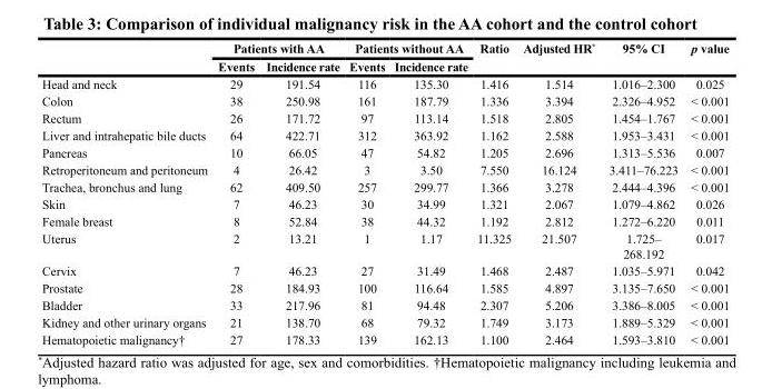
<table><thead><tr><td rowspan="2"></td><td colspan="2">Patients with AA</td><td colspan="2">Patients without AA</td><td rowspan="2">Ratio</td><td rowspan="2">Adjusted HR*</td><td rowspan="2">95% CI</td><td rowspan="2">p value</td></tr><tr><td>Events</td><td>Incidence rate</td><td>Events</td><td>Incidence rate</td></tr></thead><tbody><tr><td>Head and neck</td><td>29</td><td>191.54</td><td>116</td><td>135.30</td><td>1.416</td><td>1.514</td><td>1.016–2.300</td><td>0.025</td></tr><tr><td>Colon</td><td>38</td><td>250.98</td><td>161</td><td>187.79</td><td>1.336</td><td>3.394</td><td>2.326–4.952</td><td>&lt; 0.001</td></tr><tr><td>Rectum</td><td>26</td><td>171.72</td><td>97</td><td>113.14</td><td>1.518</td><td>2.805</td><td>1.454–1.767</td><td>&lt; 0.001</td></tr><tr><td>Liver and intrahepatic bile ducts</td><td>64</td><td>422.71</td><td>312</td><td>363.92</td><td>1.162</td><td>2.588</td><td>1.953–3.431</td><td>&lt; 0.001</td></tr><tr><td>Pancreas</td><td>10</td><td>66.05</td><td>47</td><td>54.82</td><td>1.205</td><td>2.696</td><td>1.313–5.536</td><td>0.007</td></tr><tr><td>Retroperitoneum and peritoneum</td><td>4</td><td>26.42</td><td>3</td><td>3.50</td><td>7.550</td><td>16.124</td><td>3.411–76.223</td><td>&lt; 0.001</td></tr><tr><td>Trachea, bronchus and lung</td><td>62</td><td>409.50</td><td>257</td><td>299.77</td><td>1.366</td><td>3.278</td><td>2.444–4.396</td><td>&lt; 0.001</td></tr><tr><td>Skin</td><td>7</td><td>46.23</td><td>30</td><td>34.99</td><td>1.321</td><td>2.067</td><td>1.079–4.862</td><td>0.026</td></tr><tr><td>Female breast</td><td>8</td><td>52.84</td><td>38</td><td>44.32</td><td>1.192</td><td>2.812</td><td>1.272–6.220</td><td>0.011</td></tr><tr><td>Uterus</td><td>2</td><td>13.21</td><td>1</td><td>1.17</td><td>11.325</td><td>21.507</td><td>1.725– 268.192</td><td>0.017</td></tr><tr><td>Cervix</td><td>7</td><td>46.23</td><td>27</td><td>31.49</td><td>1.468</td><td>2.487</td><td>1.035–5.971</td><td>0.042</td></tr><tr><td>Prostate</td><td>28</td><td>184.93</td><td>100</td><td>116.64</td><td>1.585</td><td>4.897</td><td>3.135–7.650</td><td>&lt; 0.001</td></tr><tr><td>Bladder</td><td>33</td><td>217.96</td><td>81</td><td>94.48</td><td>2.307</td><td>5.206</td><td>3.386–8.005</td><td>&lt; 0.001</td></tr><tr><td>Kidney and other urinary organs</td><td>21</td><td>138.70</td><td>68</td><td>79.32</td><td>1.749</td><td>3.173</td><td>1.889–5.329</td><td>&lt; 0.001</td></tr><tr><td>Hematopoietic malignancy†</td><td>27</td><td>178.33</td><td>139</td><td>162.13</td><td>1.100</td><td>2.464</td><td>1.593–3.810</td><td>&lt; 0.001</td></tr></tbody></table>